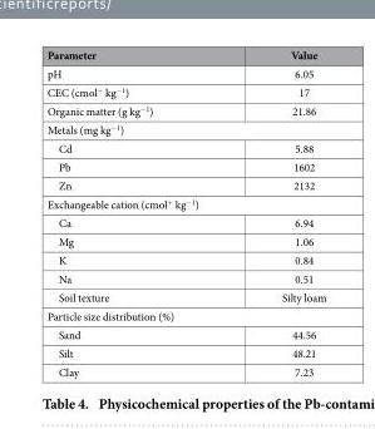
<table><thead><tr><td>Parameter</td><td>Value</td></tr></thead><tbody><tr><td>pH</td><td>6.05</td></tr><tr><td>CEC (cmol<sup>+</sup> kg<sup>−1</sup>)</td><td>17</td></tr><tr><td>Organic matter (g kg<sup>−1</sup>)</td><td>21.86</td></tr><tr><td colspan="2">Metals (mg kg<sup>−1</sup>)</td></tr><tr><td>Cd</td><td>5.88</td></tr><tr><td>Pb</td><td>1602</td></tr><tr><td>Zn</td><td>2132</td></tr><tr><td colspan="2">Exchangeable cation (cmol<sup>+</sup> kg<sup>−1</sup>)</td></tr><tr><td>Ca</td><td>6.94</td></tr><tr><td>Mg</td><td>1.06</td></tr><tr><td>K</td><td>0.84</td></tr><tr><td>Na</td><td>0.51</td></tr><tr><td>Soil texture</td><td>Silty loam</td></tr><tr><td colspan="2">Particle size distribution (%)</td></tr><tr><td>Sand</td><td>44.56</td></tr><tr><td>Silt</td><td>48.21</td></tr><tr><td>Clay</td><td>7.23</td></tr></tbody></table>